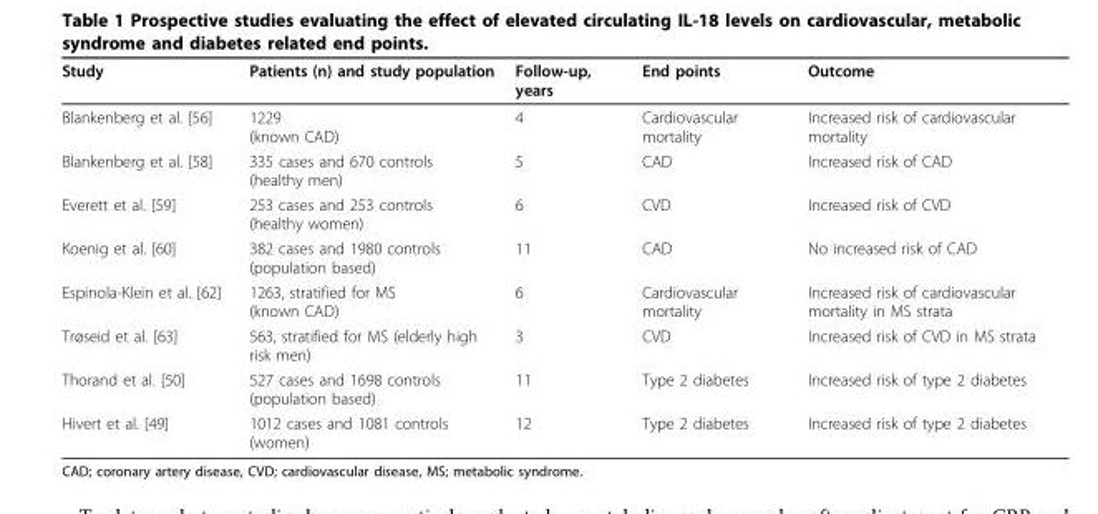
<table><thead><tr><td>Study</td><td>Patients (n) and study population</td><td>Follow-up, years</td><td>End points</td><td>Outcome</td></tr></thead><tbody><tr><td>Blankenberg et al. [56]</td><td>1229 (known CAD)</td><td>4</td><td>Cardiovascular mortality</td><td>Increased risk of cardiovascular mortality</td></tr><tr><td>Blankenberg et al. [58]</td><td>335 cases and 670 controls (healthy men)</td><td>5</td><td>CAD</td><td>Increased risk of CAD</td></tr><tr><td>Everett et al. [59]</td><td>253 cases and 253 controls (healthy women)</td><td>6</td><td>CVD</td><td>Increased risk of CVD</td></tr><tr><td>Koenig et al. [60]</td><td>382 cases and 1980 controls (population based)</td><td>11</td><td>CAD</td><td>No increased risk of CAD</td></tr><tr><td>Espinola-Klein et al. [62]</td><td>1263, stratified for MS (known CAD)</td><td>6</td><td>Cardiovascular mortality</td><td>Increased risk of cardiovascular mortality in MS strata</td></tr><tr><td>Trøseid et al. [63]</td><td>563, stratified for MS (elderly high risk men)</td><td>3</td><td>CVD</td><td>Increased risk of CVD in MS strata</td></tr><tr><td>Thorand et al. [50]</td><td>527 cases and 1698 controls (population based)</td><td>11</td><td>Type 2 diabetes</td><td>Increased risk of type 2 diabetes</td></tr><tr><td>Hivert et al. [49]</td><td>1012 cases and 1081 controls (women)</td><td>12</td><td>Type 2 diabetes</td><td>Increased risk of type 2 diabetes</td></tr></tbody></table>